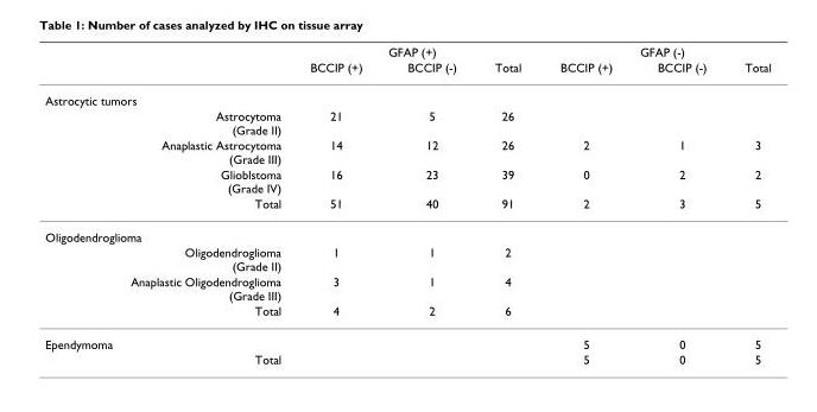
<table><thead><tr><td rowspan="2"></td><td colspan="3">GFAP (+)</td><td colspan="3">GFAP (-)</td></tr><tr><td>BCCIP (+)</td><td>BCCIP (-)</td><td>Total</td><td>BCCIP (+)</td><td>BCCIP (-)</td><td>Total</td></tr></thead><tbody><tr><td colspan="7">Astrocytic tumors</td></tr><tr><td>Astrocytoma (Grade II)</td><td>21</td><td>5</td><td>26</td><td></td><td></td><td></td></tr><tr><td>Anaplastic Astrocytoma (Grade III)</td><td>14</td><td>12</td><td>26</td><td>2</td><td>1</td><td>3</td></tr><tr><td>Glioblstoma (Grade IV)</td><td>16</td><td>23</td><td>39</td><td>0</td><td>2</td><td>2</td></tr><tr><td>Total</td><td>51</td><td>40</td><td>91</td><td>2</td><td>3</td><td>5</td></tr><tr><td colspan="7">Oligodendroglioma</td></tr><tr><td>Oligodendroglioma (Grade II)</td><td>1</td><td>1</td><td>2</td><td></td><td></td><td></td></tr><tr><td>Anaplastic Oligodendroglioma (Grade III)</td><td>3</td><td>1</td><td>4</td><td></td><td></td><td></td></tr><tr><td>Total</td><td>4</td><td>2</td><td>6</td><td></td><td></td><td></td></tr><tr><td>Ependymoma</td><td></td><td></td><td></td><td>5</td><td>0</td><td>5</td></tr><tr><td>Total</td><td></td><td></td><td></td><td>5</td><td>0</td><td>5</td></tr></tbody></table>